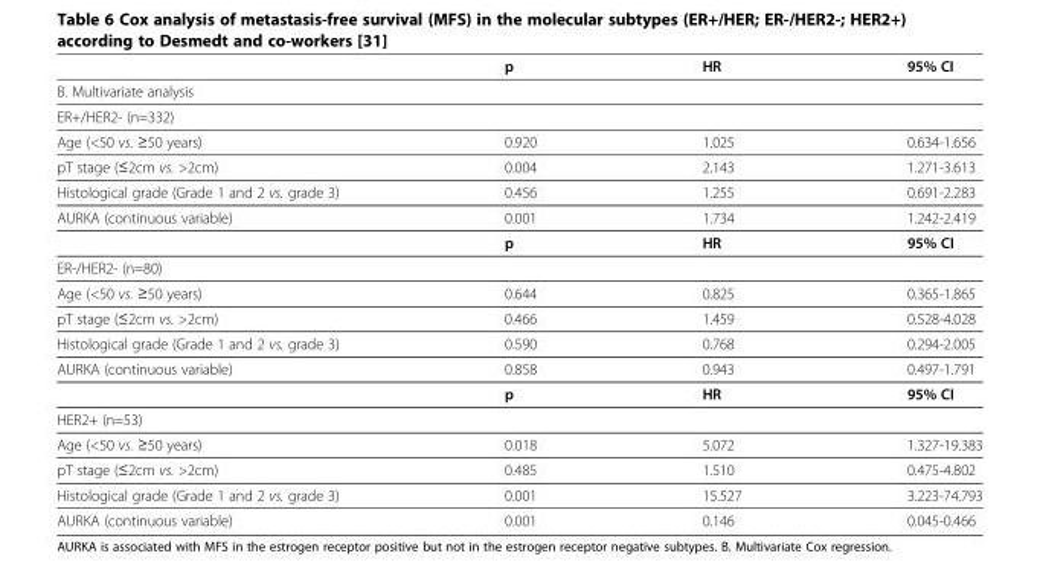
<table><thead><tr><td></td><td>p</td><td>HR</td><td>95% CI</td></tr></thead><tbody><tr><td colspan="4">B. Multivariate analysis</td></tr><tr><td colspan="4">ER+/HER2- (n=332)</td></tr><tr><td>Age (&lt;50 vs. ≥50 years)</td><td>0.920</td><td>1.025</td><td>0.634-1.656</td></tr><tr><td>pT stage (≤2cm vs. &gt;2cm)</td><td>0.004</td><td>2.143</td><td>1.271-3.613</td></tr><tr><td>Histological grade (Grade 1 and 2 vs. grade 3)</td><td>0.456</td><td>1.255</td><td>0.691-2.283</td></tr><tr><td rowspan="2">AURKA (continuous variable)</td><td>0.001</td><td>1.734</td><td>1.242-2.419</td></tr><tr><td>p</td><td>HR</td><td>95% CI</td></tr><tr><td colspan="4">ER-/HER2- (n=80)</td></tr><tr><td>Age (&lt;50 vs. ≥50 years)</td><td>0.644</td><td>0.825</td><td>0.365-1.865</td></tr><tr><td>pT stage (≤2cm vs. &gt;2cm)</td><td>0.466</td><td>1.459</td><td>0.528-4.028</td></tr><tr><td>Histological grade (Grade 1 and 2 vs. grade 3)</td><td>0.590</td><td>0.768</td><td>0.294-2.005</td></tr><tr><td rowspan="2">AURKA (continuous variable)</td><td>0.858</td><td>0.943</td><td>0.497-1.791</td></tr><tr><td>p</td><td>HR</td><td>95% CI</td></tr><tr><td colspan="4">HER2+ (n=53)</td></tr><tr><td>Age (&lt;50 vs. ≥50 years)</td><td>0.018</td><td>5.072</td><td>1.327-19.383</td></tr><tr><td>pT stage (≤2cm vs. &gt;2cm)</td><td>0.485</td><td>1.510</td><td>0.475-4.802</td></tr><tr><td>Histological grade (Grade 1 and 2 vs. grade 3)</td><td>0.001</td><td>15.527</td><td>3.223-74.793</td></tr><tr><td>AURKA (continuous variable)</td><td>0.001</td><td>0.146</td><td>0.045-0.466</td></tr></tbody></table>